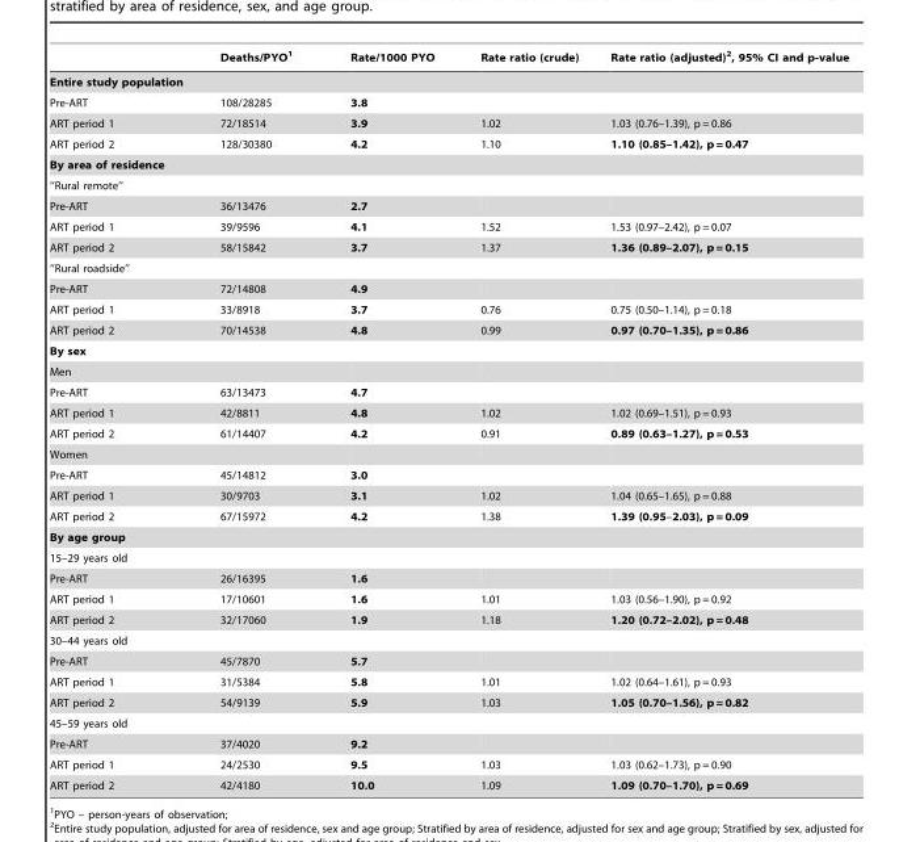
<table><thead><tr><td></td><td>Deaths/PYO<sup>1</sup></td><td>Rate/1000 PYO</td><td>Rate ratio (crude)</td><td>Rate ratio (adjusted)<sup>2</sup>, 95% CI and p-value</td></tr></thead><tbody><tr><td colspan="5">Entire study population</td></tr><tr><td>Pre-ART</td><td>108/28285</td><td>3.8</td><td></td><td></td></tr><tr><td>ART period 1</td><td>72/18514</td><td>3.9</td><td>1.02</td><td>1.03 (0.76–1.39), p = 0.86</td></tr><tr><td>ART period 2</td><td>128/30380</td><td>4.2</td><td>1.10</td><td>1.10 (0.85–1.42), p = 0.47</td></tr><tr><td colspan="5">By area of residence</td></tr><tr><td colspan="5">‘‘Rural remote’’</td></tr><tr><td>Pre-ART</td><td>36/13476</td><td>2.7</td><td></td><td></td></tr><tr><td>ART period 1</td><td>39/9596</td><td>4.1</td><td>1.52</td><td>1.53 (0.97–2.42), p = 0.07</td></tr><tr><td>ART period 2</td><td>58/15842</td><td>3.7</td><td>1.37</td><td>1.36 (0.89–2.07), p = 0.15</td></tr><tr><td colspan="5">‘‘Rural roadside’’</td></tr><tr><td>Pre-ART</td><td>72/14808</td><td>4.9</td><td></td><td></td></tr><tr><td>ART period 1</td><td>33/8918</td><td>3.7</td><td>0.76</td><td>0.75 (0.50–1.14), p = 0.18</td></tr><tr><td>ART period 2</td><td>70/14538</td><td>4.8</td><td>0.99</td><td>0.97 (0.70–1.35), p = 0.86</td></tr><tr><td colspan="5">By sex</td></tr><tr><td colspan="5">Men</td></tr><tr><td>Pre-ART</td><td>63/13473</td><td>4.7</td><td></td><td></td></tr><tr><td>ART period 1</td><td>42/8811</td><td>4.8</td><td>1.02</td><td>1.02 (0.69–1.51), p = 0.93</td></tr><tr><td>ART period 2</td><td>61/14407</td><td>4.2</td><td>0.91</td><td>0.89 (0.63–1.27), p = 0.53</td></tr><tr><td colspan="5">Women</td></tr><tr><td>Pre-ART</td><td>45/14812</td><td>3.0</td><td></td><td></td></tr><tr><td>ART period 1</td><td>30/9703</td><td>3.1</td><td>1.02</td><td>1.04 (0.65–1.65), p = 0.88</td></tr><tr><td>ART period 2</td><td>67/15972</td><td>4.2</td><td>1.38</td><td>1.39 (0.95–2.03), p = 0.09</td></tr><tr><td colspan="5">By age group</td></tr><tr><td colspan="5">15–29 years old</td></tr><tr><td>Pre-ART</td><td>26/16395</td><td>1.6</td><td></td><td></td></tr><tr><td>ART period 1</td><td>17/10601</td><td>1.6</td><td>1.01</td><td>1.03 (0.56–1.90), p = 0.92</td></tr><tr><td>ART period 2</td><td>32/17060</td><td>1.9</td><td>1.18</td><td>1.20 (0.72–2.02), p = 0.48</td></tr><tr><td colspan="5">30–44 years old</td></tr><tr><td>Pre-ART</td><td>45/7870</td><td>5.7</td><td></td><td></td></tr><tr><td>ART period 1</td><td>31/5384</td><td>5.8</td><td>1.01</td><td>1.02 (0.64–1.61), p = 0.93</td></tr><tr><td>ART period 2</td><td>54/9139</td><td>5.9</td><td>1.03</td><td>1.05 (0.70–1.56), p = 0.82</td></tr><tr><td colspan="5">45–59 years old</td></tr><tr><td>Pre-ART</td><td>37/4020</td><td>9.2</td><td></td><td></td></tr><tr><td>ART period 1</td><td>24/2530</td><td>9.5</td><td>1.03</td><td>1.03 (0.62–1.73), p = 0.90</td></tr><tr><td>ART period 2</td><td>42/4180</td><td>10.0</td><td>1.09</td><td>1.09 (0.70–1.70), p = 0.69</td></tr></tbody></table>